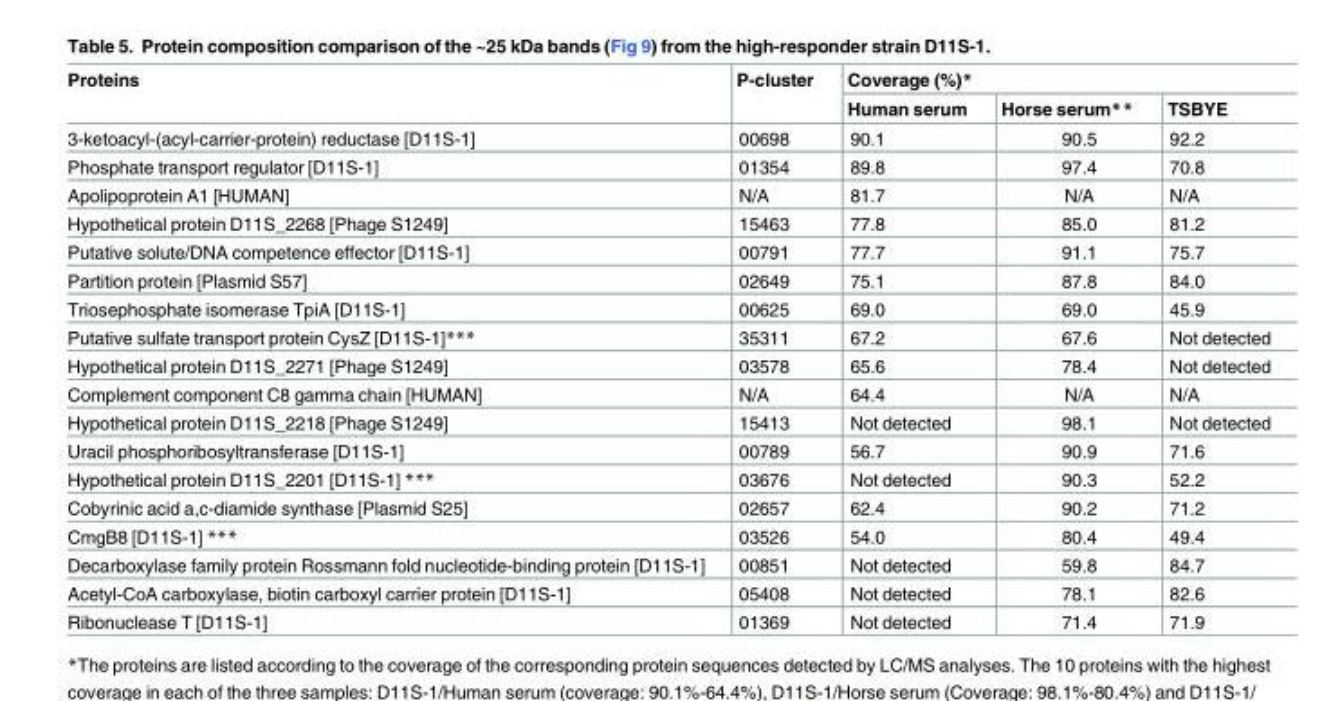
<table><thead><tr><td rowspan="2">Proteins</td><td rowspan="2">P-cluster</td><td colspan="3">Coverage (%)*</td></tr><tr><td>Human serum</td><td>Horse serum**</td><td>TSBYE</td></tr></thead><tbody><tr><td>3-ketoacyl-(acyl-carrier-protein) reductase [D11S-1]</td><td>00698</td><td>90.1</td><td>90.5</td><td>92.2</td></tr><tr><td>Phosphate transport regulator [D11S-1]</td><td>01354</td><td>89.8</td><td>97.4</td><td>70.8</td></tr><tr><td>Apolipoprotein A1 [HUMAN]</td><td>N/A</td><td>81.7</td><td>N/A</td><td>N/A</td></tr><tr><td>Hypothetical protein D11S_2268 [Phage S1249]</td><td>15463</td><td>77.8</td><td>85.0</td><td>81.2</td></tr><tr><td>Putative solute/DNA competence effector [D11S-1]</td><td>00791</td><td>77.7</td><td>91.1</td><td>75.7</td></tr><tr><td>Partition protein [Plasmid S57]</td><td>02649</td><td>75.1</td><td>87.8</td><td>84.0</td></tr><tr><td>Triosephosphate isomerase TpiA [D11S-1]</td><td>00625</td><td>69.0</td><td>69.0</td><td>45.9</td></tr><tr><td>Putative sulfate transport protein CysZ [D11S-1]***</td><td>35311</td><td>67.2</td><td>67.6</td><td>Not detected</td></tr><tr><td>Hypothetical protein D11S_2271 [Phage S1249]</td><td>03578</td><td>65.6</td><td>78.4</td><td>Not detected</td></tr><tr><td>Complement component C8 gamma chain [HUMAN]</td><td>N/A</td><td>64.4</td><td>N/A</td><td>N/A</td></tr><tr><td>Hypothetical protein D11S_2218 [Phage S1249]</td><td>15413</td><td>Not detected</td><td>98.1</td><td>Not detected</td></tr><tr><td>Uracil phosphoribosyltransferase [D11S-1]</td><td>00789</td><td>56.7</td><td>90.9</td><td>71.6</td></tr><tr><td>Hypothetical protein D11S_2201 [D11S-1] ***</td><td>03676</td><td>Not detected</td><td>90.3</td><td>52.2</td></tr><tr><td>Cobyrinic acid a,c-diamide synthase [Plasmid S25]</td><td>02657</td><td>62.4</td><td>90.2</td><td>71.2</td></tr><tr><td>CmgB8 [D11S-1] ***</td><td>03526</td><td>54.0</td><td>80.4</td><td>49.4</td></tr><tr><td>Decarboxylase family protein Rossmann fold nucleotide-binding protein [D11S-1]</td><td>00851</td><td>Not detected</td><td>59.8</td><td>84.7</td></tr><tr><td>Acetyl-CoA carboxylase, biotin carboxyl carrier protein [D11S-1]</td><td>05408</td><td>Not detected</td><td>78.1</td><td>82.6</td></tr><tr><td>Ribonuclease T [D11S-1]</td><td>01369</td><td>Not detected</td><td>71.4</td><td>71.9</td></tr></tbody></table>